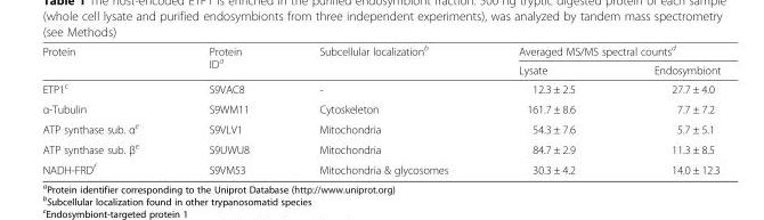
<table><thead><tr><td rowspan="2">Protein</td><td rowspan="2">Protein ID<sup>a</sup></td><td rowspan="2">Subcellular localization<sup>b</sup></td><td colspan="2">Averaged MS/MS spectral counts<sup>d</sup></td></tr><tr><td>Lysate</td><td>Endosymbiont</td></tr></thead><tbody><tr><td>ETP1<sup>c</sup></td><td>S9VAC8</td><td>-</td><td>12.3 ± 2.5</td><td>27.7 ± 4.0</td></tr><tr><td>α-Tubulin</td><td>S9WM11</td><td>Cytoskeleton</td><td>161.7 ± 8.6</td><td>7.7 ± 7.2</td></tr><tr><td>ATP synthase sub. α<sup>e</sup></td><td>S9VLV1</td><td>Mitochondria</td><td>54.3 ± 7.6</td><td>5.7 ± 5.1</td></tr><tr><td>ATP synthase sub. β<sup>e</sup></td><td>S9UWU8</td><td>Mitochondria</td><td>84.7 ± 2.9</td><td>11.3 ± 8.5</td></tr><tr><td>NADH-FRD<sup>f</sup></td><td>S9VM53</td><td>Mitochondria &amp; glycosomes</td><td>30.3 ± 4.2</td><td>14.0 ± 12.3</td></tr></tbody></table>